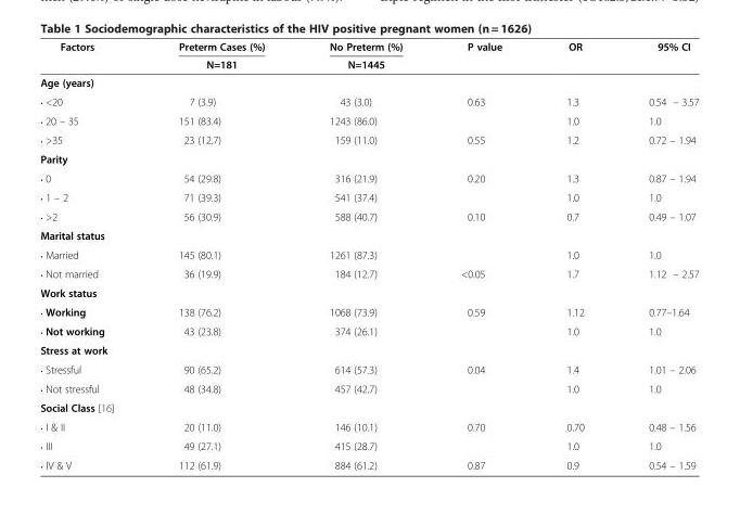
<table><thead><tr><td rowspan="2">Factors</td><td rowspan="2">Preterm Cases (%) N=181</td><td rowspan="2">No Preterm (%) N=1445</td><td rowspan="2">P value</td><td rowspan="2">OR</td><td rowspan="2">95% CI</td></tr><tr></tr></thead><tbody><tr><td colspan="6">Age (years)</td></tr><tr><td>• &lt;20</td><td>7 (3.9)</td><td>43 (3.0)</td><td>0.63</td><td>1.3</td><td>0.54 – 3.57</td></tr><tr><td>• 20 – 35</td><td>151 (83.4)</td><td>1243 (86.0)</td><td></td><td>1.0</td><td>1.0</td></tr><tr><td>• &gt;35</td><td>23 (12.7)</td><td>159 (11.0)</td><td>0.55</td><td>1.2</td><td>0.72 – 1.94</td></tr><tr><td colspan="6">Parity</td></tr><tr><td>• 0</td><td>54 (29.8)</td><td>316 (21.9)</td><td>0.20</td><td>1.3</td><td>0.87 – 1.94</td></tr><tr><td>• 1 – 2</td><td>71 (39.3)</td><td>541 (37.4)</td><td></td><td>1.0</td><td>1.0</td></tr><tr><td>• &gt;2</td><td>56 (30.9)</td><td>588 (40.7)</td><td>0.10</td><td>0.7</td><td>0.49 – 1.07</td></tr><tr><td colspan="6">Marital status</td></tr><tr><td>• Married</td><td>145 (80.1)</td><td>1261 (87.3)</td><td></td><td>1.0</td><td>1.0</td></tr><tr><td>• Not married</td><td>36 (19.9)</td><td>184 (12.7)</td><td>&lt;0.05</td><td>1.7</td><td>1.12 – 2.57</td></tr><tr><td colspan="6">Work status</td></tr><tr><td>• Working</td><td>138 (76.2)</td><td>1068 (73.9)</td><td>0.59</td><td>1.12</td><td>0.77–1.64</td></tr><tr><td>• Not working</td><td>43 (23.8)</td><td>374 (26.1)</td><td></td><td>1.0</td><td>1.0</td></tr><tr><td colspan="6">Stress at work</td></tr><tr><td>• Stressful</td><td>90 (65.2)</td><td>614 (57.3)</td><td>0.04</td><td>1.4</td><td>1.01 – 2.06</td></tr><tr><td>• Not stressful</td><td>48 (34.8)</td><td>457 (42.7)</td><td></td><td>1.0</td><td>1.0</td></tr><tr><td colspan="6">Social Class [16]</td></tr><tr><td>• I &amp; II</td><td>20 (11.0)</td><td>146 (10.1)</td><td>0.70</td><td>0.70</td><td>0.48 – 1.56</td></tr><tr><td>• III</td><td>49 (27.1)</td><td>415 (28.7)</td><td></td><td>1.0</td><td>1.0</td></tr><tr><td>• IV &amp; V</td><td>112 (61.9)</td><td>884 (61.2)</td><td>0.87</td><td>0.9</td><td>0.54 – 1.59</td></tr></tbody></table>